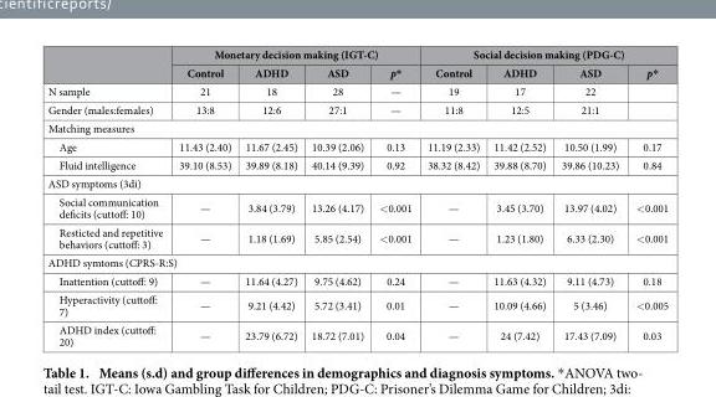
<table><thead><tr><td rowspan="2"></td><td colspan="4">Monetary decision making (IGT-C)</td><td colspan="4">Social decision making (PDG-C)</td></tr><tr><td>Control</td><td>ADHD</td><td>ASD</td><td>p*</td><td>Control</td><td>ADHD</td><td>ASD</td><td>p*</td></tr></thead><tbody><tr><td>N sample</td><td>21</td><td>18</td><td>28</td><td>—</td><td>19</td><td>17</td><td>22</td><td></td></tr><tr><td>Gender (males:females)</td><td>13:8</td><td>12:6</td><td>27:1</td><td>—</td><td>11:8</td><td>12:5</td><td>21:1</td><td></td></tr><tr><td colspan="9">Matching measures</td></tr><tr><td>Age</td><td>11.43 (2.40)</td><td>11.67 (2.45)</td><td>10.39 (2.06)</td><td>0.13</td><td>11.19 (2.33)</td><td>11.42 (2.52)</td><td>10.50 (1.99)</td><td>0.17</td></tr><tr><td>Fluid intelligence</td><td>39.10 (8.53)</td><td>39.89 (8.18)</td><td>40.14 (9.39)</td><td>0.92</td><td>38.32 (8.42)</td><td>39.88 (8.70)</td><td>39.86 (10.23)</td><td>0.84</td></tr><tr><td colspan="9">ASD symptoms (3di)</td></tr><tr><td>Social communication deficits (cuttoff: 10)</td><td>—</td><td>3.84 (3.79)</td><td>13.26 (4.17)</td><td>&lt; 0.001</td><td>—</td><td>3.45 (3.70)</td><td>13.97 (4.02)</td><td>&lt; 0.001</td></tr><tr><td>Resticted and repetitive behaviors (cuttoff: 3)</td><td>—</td><td>1.18 (1.69)</td><td>5.85 (2.54)</td><td>&lt; 0.001</td><td>—</td><td>1.23 (1.80)</td><td>6.33 (2.30)</td><td>&lt; 0.001</td></tr><tr><td colspan="9">ADHD symtoms (CPRS-R:S)</td></tr><tr><td>Inattention (cuttoff: 9)</td><td>—</td><td>11.64 (4.27)</td><td>9.75 (4.62)</td><td>0.24</td><td>—</td><td>11.63 (4.32)</td><td>9.11 (4.73)</td><td>0.18</td></tr><tr><td>Hyperactivity (cuttoff: 7)</td><td>—</td><td>9.21 (4.42)</td><td>5.72 (3.41)</td><td>0.01</td><td>—</td><td>10.09 (4.66)</td><td>5 (3.46)</td><td>&lt; 0.005</td></tr><tr><td>ADHD index (cuttoff: 20)</td><td>—</td><td>23.79 (6.72)</td><td>18.72 (7.01)</td><td>0.04</td><td>—</td><td>24 (7.42)</td><td>17.43 (7.09)</td><td>0.03</td></tr></tbody></table>